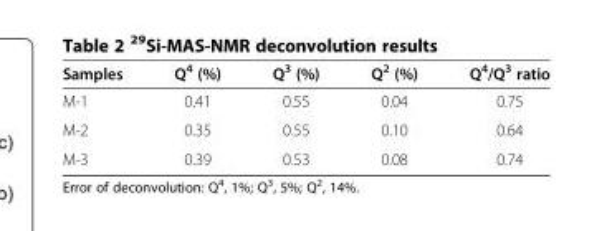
<table><thead><tr><td>Samples</td><td>Q<sup>4</sup> (%)</td><td>Q<sup>3</sup> (%)</td><td>Q<sup>2</sup> (%)</td><td>Q<sup>4</sup>/Q<sup>3</sup> ratio</td></tr></thead><tbody><tr><td>M-1</td><td>0.41</td><td>0.55</td><td>0.04</td><td>0.75</td></tr><tr><td>M-2</td><td>0.35</td><td>0.55</td><td>0.10</td><td>0.64</td></tr><tr><td>M-3</td><td>0.39</td><td>0.53</td><td>0.08</td><td>0.74</td></tr></tbody></table>